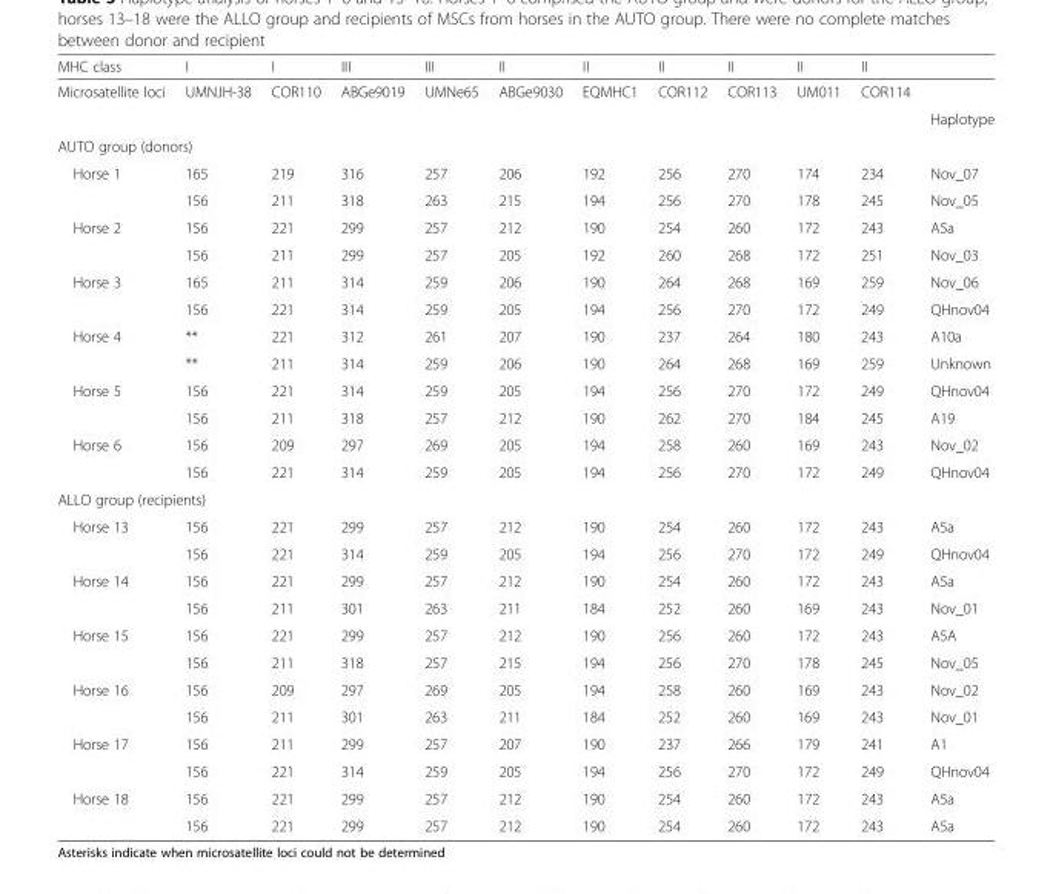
<table><thead><tr><td>MHC class</td><td>I</td><td>I</td><td>III</td><td>III</td><td>II</td><td>II</td><td>II</td><td>II</td><td>II</td><td>II</td><td></td></tr></thead><tbody><tr><td rowspan="2">Microsatellite loci</td><td>UMNJH-38</td><td>COR110</td><td>ABGe9019</td><td>UMNe65</td><td>ABGe9030</td><td>EQMHC1</td><td>COR112</td><td>COR113</td><td>UM011</td><td>COR114</td><td></td></tr><tr><td></td><td></td><td></td><td></td><td></td><td></td><td></td><td></td><td></td><td></td><td>Haplotype</td></tr><tr><td colspan="12">AUTO group (donors)</td></tr><tr><td rowspan="2">Horse 1</td><td>165</td><td>219</td><td>316</td><td>257</td><td>206</td><td>192</td><td>256</td><td>270</td><td>174</td><td>234</td><td>Nov_07</td></tr><tr><td>156</td><td>211</td><td>318</td><td>263</td><td>215</td><td>194</td><td>256</td><td>270</td><td>178</td><td>245</td><td>Nov_05</td></tr><tr><td rowspan="2">Horse 2</td><td>156</td><td>221</td><td>299</td><td>257</td><td>212</td><td>190</td><td>254</td><td>260</td><td>172</td><td>243</td><td>A5a</td></tr><tr><td>156</td><td>211</td><td>299</td><td>257</td><td>205</td><td>192</td><td>260</td><td>268</td><td>172</td><td>251</td><td>Nov_03</td></tr><tr><td rowspan="2">Horse 3</td><td>165</td><td>211</td><td>314</td><td>259</td><td>206</td><td>190</td><td>264</td><td>268</td><td>169</td><td>259</td><td>Nov_06</td></tr><tr><td>156</td><td>221</td><td>314</td><td>259</td><td>205</td><td>194</td><td>256</td><td>270</td><td>172</td><td>249</td><td>QHnov04</td></tr><tr><td rowspan="2">Horse 4</td><td>**</td><td>221</td><td>312</td><td>261</td><td>207</td><td>190</td><td>237</td><td>264</td><td>180</td><td>243</td><td>A10a</td></tr><tr><td>**</td><td>211</td><td>314</td><td>259</td><td>206</td><td>190</td><td>264</td><td>268</td><td>169</td><td>259</td><td>Unknown</td></tr><tr><td rowspan="2">Horse 5</td><td>156</td><td>221</td><td>314</td><td>259</td><td>205</td><td>194</td><td>256</td><td>270</td><td>172</td><td>249</td><td>QHnov04</td></tr><tr><td>156</td><td>211</td><td>318</td><td>257</td><td>212</td><td>190</td><td>262</td><td>270</td><td>184</td><td>245</td><td>A19</td></tr><tr><td rowspan="2">Horse 6</td><td>156</td><td>209</td><td>297</td><td>269</td><td>205</td><td>194</td><td>258</td><td>260</td><td>169</td><td>243</td><td>Nov_02</td></tr><tr><td>156</td><td>221</td><td>314</td><td>259</td><td>205</td><td>194</td><td>256</td><td>270</td><td>172</td><td>249</td><td>QHnov04</td></tr><tr><td colspan="12">ALLO group (recipients)</td></tr><tr><td rowspan="2">Horse 13</td><td>156</td><td>221</td><td>299</td><td>257</td><td>212</td><td>190</td><td>254</td><td>260</td><td>172</td><td>243</td><td>A5a</td></tr><tr><td>156</td><td>221</td><td>314</td><td>259</td><td>205</td><td>194</td><td>256</td><td>270</td><td>172</td><td>249</td><td>QHnov04</td></tr><tr><td rowspan="2">Horse 14</td><td>156</td><td>221</td><td>299</td><td>257</td><td>212</td><td>190</td><td>254</td><td>260</td><td>172</td><td>243</td><td>A5a</td></tr><tr><td>156</td><td>211</td><td>301</td><td>263</td><td>211</td><td>184</td><td>252</td><td>260</td><td>169</td><td>243</td><td>Nov_01</td></tr><tr><td rowspan="2">Horse 15</td><td>156</td><td>221</td><td>299</td><td>257</td><td>212</td><td>190</td><td>256</td><td>260</td><td>172</td><td>243</td><td>A5A</td></tr><tr><td>156</td><td>211</td><td>318</td><td>257</td><td>215</td><td>194</td><td>256</td><td>270</td><td>178</td><td>245</td><td>Nov_05</td></tr><tr><td rowspan="2">Horse 16</td><td>156</td><td>209</td><td>297</td><td>269</td><td>205</td><td>194</td><td>258</td><td>260</td><td>169</td><td>243</td><td>Nov_02</td></tr><tr><td>156</td><td>211</td><td>301</td><td>263</td><td>211</td><td>184</td><td>252</td><td>260</td><td>169</td><td>243</td><td>Nov_01</td></tr><tr><td rowspan="2">Horse 17</td><td>156</td><td>211</td><td>299</td><td>257</td><td>207</td><td>190</td><td>237</td><td>266</td><td>179</td><td>241</td><td>A1</td></tr><tr><td>156</td><td>221</td><td>314</td><td>259</td><td>205</td><td>194</td><td>256</td><td>270</td><td>172</td><td>249</td><td>QHnov04</td></tr><tr><td rowspan="2">Horse 18</td><td>156</td><td>221</td><td>299</td><td>257</td><td>212</td><td>190</td><td>254</td><td>260</td><td>172</td><td>243</td><td>A5a</td></tr><tr><td>156</td><td>221</td><td>299</td><td>257</td><td>212</td><td>190</td><td>254</td><td>260</td><td>172</td><td>243</td><td>A5a</td></tr></tbody></table>